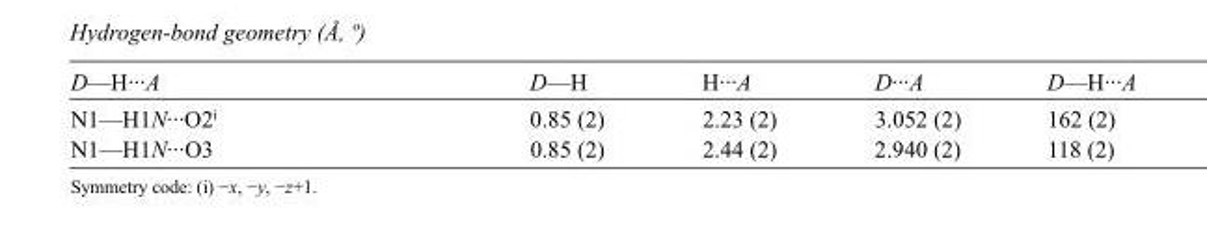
<table><tbody><tr><td>D—H···A</td><td>D—H</td><td>H···A</td><td>D···A</td><td>D—H···A</td></tr><tr><td>N1—H1N···O2<sup>i</sup></td><td>0.85 (2)</td><td>2.23 (2)</td><td>3.052 (2)</td><td>162 (2)</td></tr><tr><td>N1—H1N···O3</td><td>0.85 (2)</td><td>2.44 (2)</td><td>2.940 (2)</td><td>118 (2)</td></tr></tbody></table>